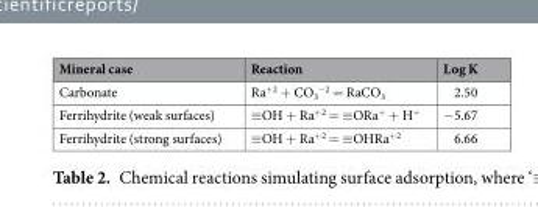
<table><thead><tr><td>Mineral case</td><td>Reaction</td><td>Log K</td></tr></thead><tbody><tr><td>Carbonate</td><td>Ra<sup>+2</sup> + CO<sub>3</sub> <sup>−2</sup> = RaCO<sub>3</sub></td><td>2.50</td></tr><tr><td>Ferrihydrite (weak surfaces)</td><td>≡OH + Ra<sup>+2</sup> = ≡ORa<sup>+</sup> + H<sup>+</sup></td><td>−5.67</td></tr><tr><td>Ferrihydrite (strong surfaces)</td><td>≡OH + Ra<sup>+2</sup> = ≡OHRa<sup>+2</sup></td><td>6.66</td></tr></tbody></table>